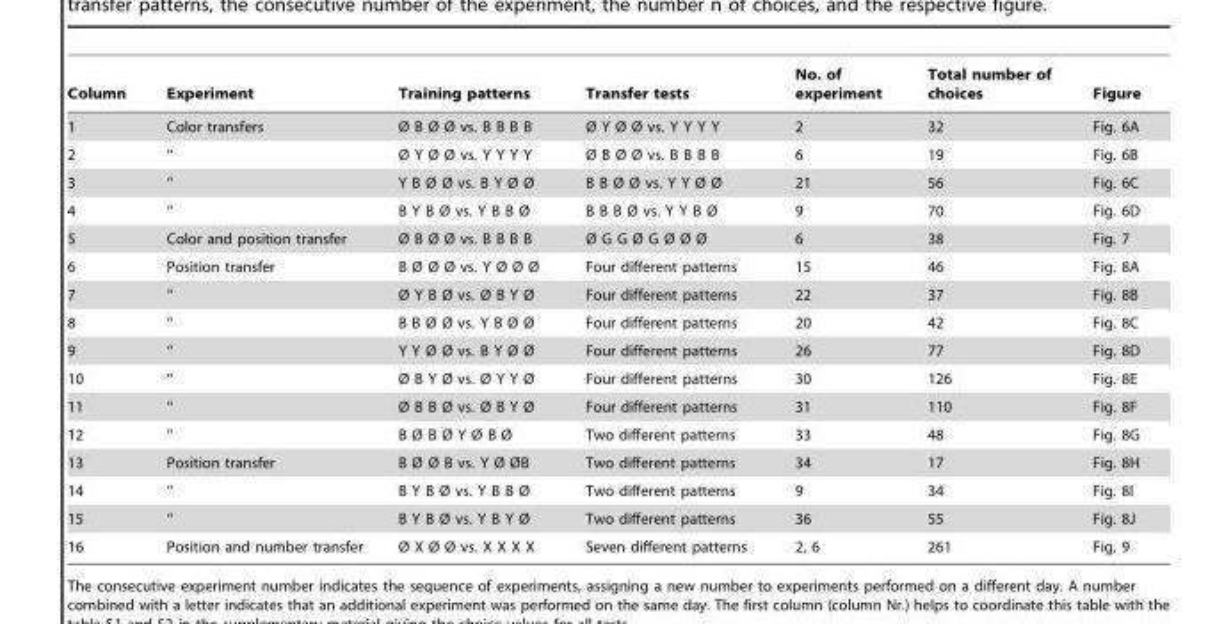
<table><thead><tr><td>Column</td><td>Experiment</td><td>Training patterns</td><td>Transfer tests</td><td>No. of experiment</td><td>Total number of choices</td><td>Figure</td></tr></thead><tbody><tr><td>1</td><td>Color transfers</td><td>Ø B Ø Ø vs. B B B B</td><td>Ø Y Ø Ø vs. Y Y Y Y</td><td>2</td><td>32</td><td>Fig. 6A</td></tr><tr><td>2</td><td>‘‘</td><td>Ø Y Ø Ø vs. Y Y Y Y</td><td>Ø B Ø Ø vs. B B B B</td><td>6</td><td>19</td><td>Fig. 6B</td></tr><tr><td>3</td><td>‘‘</td><td>Y B Ø Ø vs. B Y Ø Ø</td><td>B B Ø Ø vs. Y Y Ø Ø</td><td>21</td><td>56</td><td>Fig. 6C</td></tr><tr><td>4</td><td>‘‘</td><td>B Y B Ø vs. Y B B Ø</td><td>B B B Ø vs. Y Y B Ø</td><td>9</td><td>70</td><td>Fig. 6D</td></tr><tr><td>5</td><td>Color and position transfer</td><td>Ø B Ø Ø vs. B B B B</td><td>Ø G G Ø G Ø Ø Ø</td><td>6</td><td>38</td><td>Fig. 7</td></tr><tr><td>6</td><td>Position transfer</td><td>B Ø Ø Ø vs. Y Ø Ø Ø</td><td>Four different patterns</td><td>15</td><td>46</td><td>Fig. 8A</td></tr><tr><td>7</td><td>‘‘</td><td>Ø Y B Ø vs. Ø B Y Ø</td><td>Four different patterns</td><td>22</td><td>37</td><td>Fig. 8B</td></tr><tr><td>8</td><td>‘‘</td><td>B B Ø Ø vs. Y B Ø Ø</td><td>Four different patterns</td><td>20</td><td>42</td><td>Fig. 8C</td></tr><tr><td>9</td><td>‘‘</td><td>Y Y Ø Ø vs. B Y Ø Ø</td><td>Four different patterns</td><td>26</td><td>77</td><td>Fig. 8D</td></tr><tr><td>10</td><td>‘‘</td><td>Ø B Y Ø vs. Ø Y Y Ø</td><td>Four different patterns</td><td>30</td><td>126</td><td>Fig. 8E</td></tr><tr><td>11</td><td>‘‘</td><td>Ø B B Ø vs. Ø B Y Ø</td><td>Four different patterns</td><td>31</td><td>110</td><td>Fig. 8F</td></tr><tr><td>12</td><td>‘‘</td><td>B Ø B Ø Y Ø B Ø</td><td>Two different patterns</td><td>33</td><td>48</td><td>Fig. 8G</td></tr><tr><td>13</td><td>Position transfer</td><td>B Ø Ø B vs. Y Ø ØB</td><td>Two different patterns</td><td>34</td><td>17</td><td>Fig. 8H</td></tr><tr><td>14</td><td>‘‘</td><td>B Y B Ø vs. Y B B Ø</td><td>Two different patterns</td><td>9</td><td>34</td><td>Fig. 8I</td></tr><tr><td>15</td><td>‘‘</td><td>B Y B Ø vs. Y B Y Ø</td><td>Two different patterns</td><td>36</td><td>55</td><td>Fig. 8J</td></tr><tr><td>16</td><td>Position and number transfer</td><td>Ø X Ø Ø vs. X X X X</td><td>Seven different patterns</td><td>2, 6</td><td>261</td><td>Fig. 9</td></tr></tbody></table>